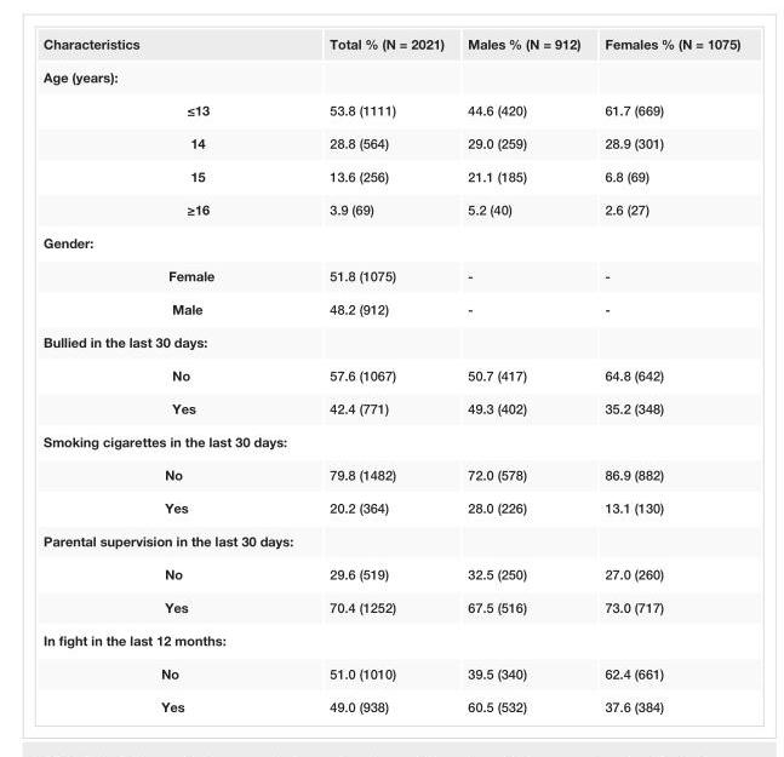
<table><tbody><tr><td>Characteristics</td><td>Total % (N = 2021)</td><td>Males % (N = 912)</td><td>Females % (N = 1075)</td></tr><tr><td colspan="4">Age (years):</td></tr><tr><td>≤13</td><td>53.8 (1111)</td><td>44.6 (420)</td><td>61.7 (669)</td></tr><tr><td>14</td><td>28.8 (564)</td><td>29.0 (259)</td><td>28.9 (301)</td></tr><tr><td>15</td><td>13.6 (256)</td><td>21.1 (185)</td><td>6.8 (69)</td></tr><tr><td>≥16</td><td>3.9 (69)</td><td>5.2 (40)</td><td>2.6 (27)</td></tr><tr><td colspan="4">Gender:</td></tr><tr><td>Female</td><td>51.8 (1075)</td><td>-</td><td>-</td></tr><tr><td>Male</td><td>48.2 (912)</td><td>-</td><td>-</td></tr><tr><td colspan="4">Bullied in the last 30 days:</td></tr><tr><td>No</td><td>57.6 (1067)</td><td>50.7 (417)</td><td>64.8 (642)</td></tr><tr><td>Yes</td><td>42.4 (771)</td><td>49.3 (402)</td><td>35.2 (348)</td></tr><tr><td colspan="4">Smoking cigarettes in the last 30 days:</td></tr><tr><td>No</td><td>79.8 (1482)</td><td>72.0 (578)</td><td>86.9 (882)</td></tr><tr><td>Yes</td><td>20.2 (364)</td><td>28.0 (226)</td><td>13.1 (130)</td></tr><tr><td colspan="4">Parental supervision in the last 30 days:</td></tr><tr><td>No</td><td>29.6 (519)</td><td>32.5 (250)</td><td>27.0 (260)</td></tr><tr><td>Yes</td><td>70.4 (1252)</td><td>67.5 (516)</td><td>73.0 (717)</td></tr><tr><td colspan="4">In fight in the last 12 months:</td></tr><tr><td>No</td><td>51.0 (1010)</td><td>39.5 (340)</td><td>62.4 (661)</td></tr><tr><td>Yes</td><td>49.0 (938)</td><td>60.5 (532)</td><td>37.6 (384)</td></tr></tbody></table>